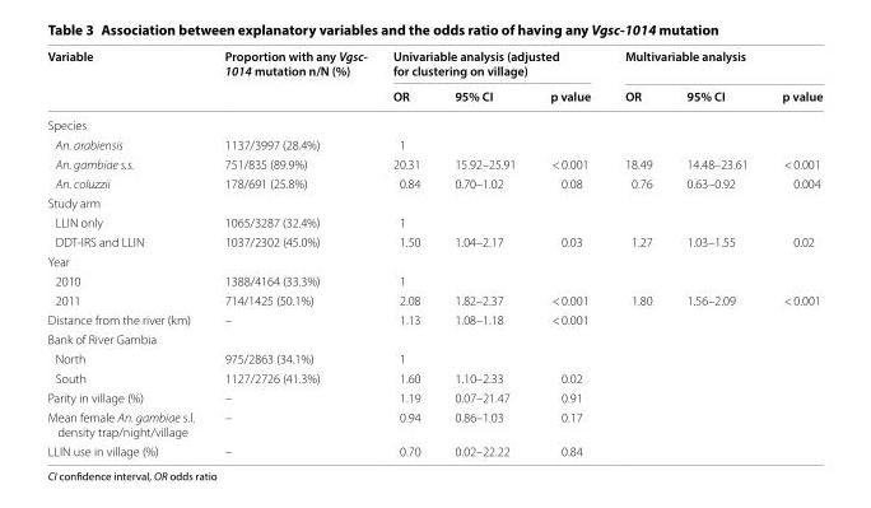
<table><thead><tr><td rowspan="2">Variable</td><td rowspan="2">Proportion with any Vgsc- 1014 mutation n/N (%)</td><td colspan="3">Univariable analysis (adjusted for clustering on village)</td><td colspan="3">Multivariable analysis</td></tr><tr><td>OR</td><td>95% CI</td><td>p value</td><td>OR</td><td>95% CI</td><td>p value</td></tr></thead><tbody><tr><td colspan="8">Species</td></tr><tr><td>An. arabiensis</td><td>1137/3997 (28.4%)</td><td>1</td><td></td><td></td><td></td><td></td><td></td></tr><tr><td>An. gambiae s.s.</td><td>751/835 (89.9%)</td><td>20.31</td><td>15.92–25.91</td><td>&lt; 0.001</td><td>18.49</td><td>14.48–23.61</td><td>&lt; 0.001</td></tr><tr><td>An. coluzzii</td><td>178/691 (25.8%)</td><td>0.84</td><td>0.70–1.02</td><td>0.08</td><td>0.76</td><td>0.63–0.92</td><td>0.004</td></tr><tr><td colspan="8">Study arm</td></tr><tr><td>LLIN only</td><td>1065/3287 (32.4%)</td><td>1</td><td></td><td></td><td></td><td></td><td></td></tr><tr><td>DDT‑IRS and LLIN</td><td>1037/2302 (45.0%)</td><td>1.50</td><td>1.04–2.17</td><td>0.03</td><td>1.27</td><td>1.03–1.55</td><td>0.02</td></tr><tr><td colspan="8">Year</td></tr><tr><td>2010</td><td>1388/4164 (33.3%)</td><td>1</td><td></td><td></td><td></td><td></td><td></td></tr><tr><td>2011</td><td>714/1425 (50.1%)</td><td>2.08</td><td>1.82–2.37</td><td>&lt; 0.001</td><td>1.80</td><td>1.56–2.09</td><td>&lt; 0.001</td></tr><tr><td>Distance from the river (km)</td><td>–</td><td>1.13</td><td>1.08–1.18</td><td>&lt; 0.001</td><td></td><td></td><td></td></tr><tr><td colspan="8">Bank of River Gambia</td></tr><tr><td>North</td><td>975/2863 (34.1%)</td><td>1</td><td></td><td></td><td></td><td></td><td></td></tr><tr><td>South</td><td>1127/2726 (41.3%)</td><td>1.60</td><td>1.10–2.33</td><td>0.02</td><td></td><td></td><td></td></tr><tr><td>Parity in village (%)</td><td>–</td><td>1.19</td><td>0.07–21.47</td><td>0.91</td><td></td><td></td><td></td></tr><tr><td>Mean female An. gambiae s.l. density trap/night/village</td><td>–</td><td>0.94</td><td>0.86–1.03</td><td>0.17</td><td></td><td></td><td></td></tr><tr><td>LLIN use in village (%)</td><td>–</td><td>0.70</td><td>0.02–22.22</td><td>0.84</td><td></td><td></td><td></td></tr></tbody></table>